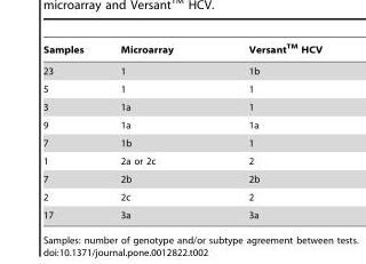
<table><thead><tr><td>Samples</td><td>Microarray</td><td>VersantTM HCV</td></tr></thead><tbody><tr><td>23</td><td>1</td><td>1b</td></tr><tr><td>5</td><td>1</td><td>1</td></tr><tr><td>3</td><td>1a</td><td>1</td></tr><tr><td>9</td><td>1a</td><td>1a</td></tr><tr><td>7</td><td>1b</td><td>1</td></tr><tr><td>1</td><td>2a or 2c</td><td>2</td></tr><tr><td>7</td><td>2b</td><td>2b</td></tr><tr><td>2</td><td>2c</td><td>2</td></tr><tr><td>17</td><td>3a</td><td>3a</td></tr></tbody></table>